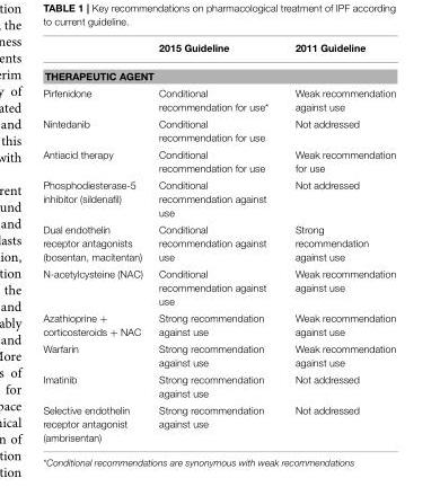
<table><thead><tr><td></td><td>2015 Guideline</td><td>2011 Guideline</td></tr></thead><tbody><tr><td colspan="3">THERAPEUTIC AGENT</td></tr><tr><td>Pirfenidone</td><td>Conditional recommendation for use*</td><td>Weak recommendation against use</td></tr><tr><td>Nintedanib</td><td>Conditional recommendation for use</td><td>Not addressed</td></tr><tr><td>Antiacid therapy</td><td>Conditional recommendation for use</td><td>Weak recommendation for use</td></tr><tr><td>Phosphodiesterase-5 inhibitor (sildenafil)</td><td>Conditional recommendation against use</td><td>Not addressed</td></tr><tr><td>Dual endothelin receptor antagonists (bosentan, macitentan)</td><td>Conditional recommendation against use</td><td>Strong recommendation against use</td></tr><tr><td>N-acetylcysteine (NAC)</td><td>Conditional recommendation against use</td><td>Weak recommendation against use</td></tr><tr><td>Azathioprine + corticosteroids + NAC</td><td>Strong recommendation against use</td><td>Weak recommendation against use</td></tr><tr><td>Warfarin</td><td>Strong recommendation against use</td><td>Weak recommendation against use</td></tr><tr><td>Imatinib</td><td>Strong recommendation against use</td><td>Not addressed</td></tr><tr><td>Selective endothelin receptor antagonist (ambrisentan)</td><td>Strong recommendation against use</td><td>Not addressed</td></tr></tbody></table>